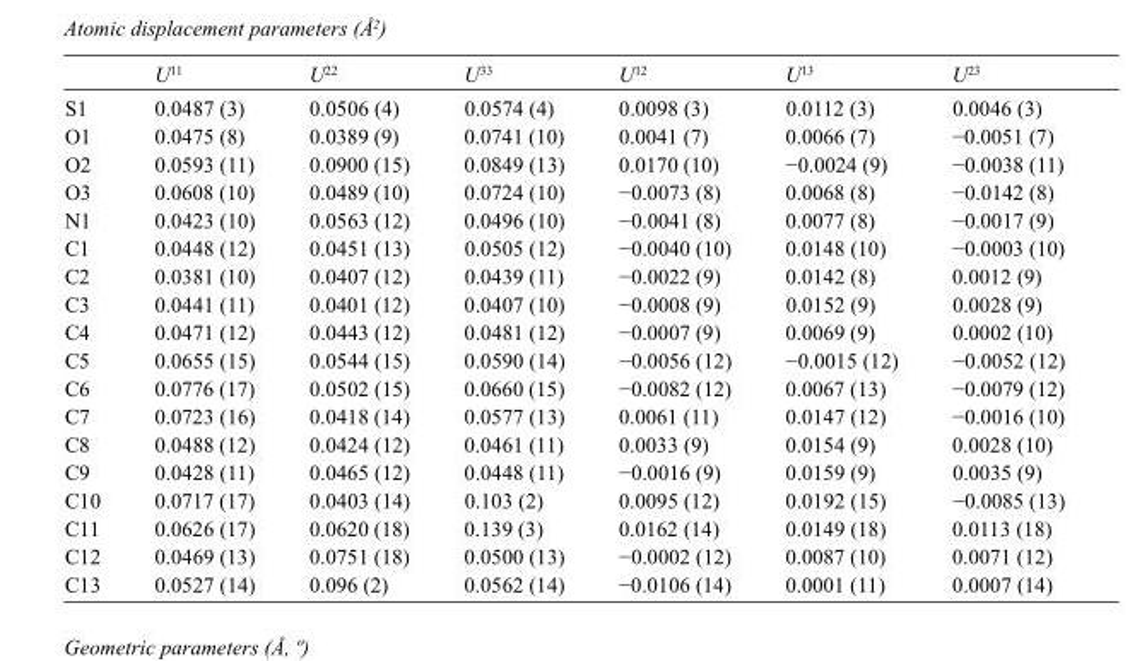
<table><thead><tr><td></td><td>U<sup>11</sup></td><td>U<sup>22</sup></td><td>U<sup>33</sup></td><td>U<sup>12</sup></td><td>U<sup>13</sup></td><td>U<sup>23</sup></td></tr></thead><tbody><tr><td>S1</td><td>0.0487 (3)</td><td>0.0506 (4)</td><td>0.0574 (4)</td><td>0.0098 (3)</td><td>0.0112 (3)</td><td>0.0046 (3)</td></tr><tr><td>O1</td><td>0.0475 (8)</td><td>0.0389 (9)</td><td>0.0741 (10)</td><td>0.0041 (7)</td><td>0.0066 (7)</td><td>−0.0051 (7)</td></tr><tr><td>O2</td><td>0.0593 (11)</td><td>0.0900 (15)</td><td>0.0849 (13)</td><td>0.0170 (10)</td><td>−0.0024 (9)</td><td>−0.0038 (11)</td></tr><tr><td>O3</td><td>0.0608 (10)</td><td>0.0489 (10)</td><td>0.0724 (10)</td><td>−0.0073 (8)</td><td>0.0068 (8)</td><td>−0.0142 (8)</td></tr><tr><td>N1</td><td>0.0423 (10)</td><td>0.0563 (12)</td><td>0.0496 (10)</td><td>−0.0041 (8)</td><td>0.0077 (8)</td><td>−0.0017 (9)</td></tr><tr><td>C1</td><td>0.0448 (12)</td><td>0.0451 (13)</td><td>0.0505 (12)</td><td>−0.0040 (10)</td><td>0.0148 (10)</td><td>−0.0003 (10)</td></tr><tr><td>C2</td><td>0.0381 (10)</td><td>0.0407 (12)</td><td>0.0439 (11)</td><td>−0.0022 (9)</td><td>0.0142 (8)</td><td>0.0012 (9)</td></tr><tr><td>C3</td><td>0.0441 (11)</td><td>0.0401 (12)</td><td>0.0407 (10)</td><td>−0.0008 (9)</td><td>0.0152 (9)</td><td>0.0028 (9)</td></tr><tr><td>C4</td><td>0.0471 (12)</td><td>0.0443 (12)</td><td>0.0481 (12)</td><td>−0.0007 (9)</td><td>0.0069 (9)</td><td>0.0002 (10)</td></tr><tr><td>C5</td><td>0.0655 (15)</td><td>0.0544 (15)</td><td>0.0590 (14)</td><td>−0.0056 (12)</td><td>−0.0015 (12)</td><td>−0.0052 (12)</td></tr><tr><td>C6</td><td>0.0776 (17)</td><td>0.0502 (15)</td><td>0.0660 (15)</td><td>−0.0082 (12)</td><td>0.0067 (13)</td><td>−0.0079 (12)</td></tr><tr><td>C7</td><td>0.0723 (16)</td><td>0.0418 (14)</td><td>0.0577 (13)</td><td>0.0061 (11)</td><td>0.0147 (12)</td><td>−0.0016 (10)</td></tr><tr><td>C8</td><td>0.0488 (12)</td><td>0.0424 (12)</td><td>0.0461 (11)</td><td>0.0033 (9)</td><td>0.0154 (9)</td><td>0.0028 (10)</td></tr><tr><td>C9</td><td>0.0428 (11)</td><td>0.0465 (12)</td><td>0.0448 (11)</td><td>−0.0016 (9)</td><td>0.0159 (9)</td><td>0.0035 (9)</td></tr><tr><td>C10</td><td>0.0717 (17)</td><td>0.0403 (14)</td><td>0.103 (2)</td><td>0.0095 (12)</td><td>0.0192 (15)</td><td>−0.0085 (13)</td></tr><tr><td>C11</td><td>0.0626 (17)</td><td>0.0620 (18)</td><td>0.139 (3)</td><td>0.0162 (14)</td><td>0.0149 (18)</td><td>0.0113 (18)</td></tr><tr><td>C12</td><td>0.0469 (13)</td><td>0.0751 (18)</td><td>0.0500 (13)</td><td>−0.0002 (12)</td><td>0.0087 (10)</td><td>0.0071 (12)</td></tr><tr><td>C13</td><td>0.0527 (14)</td><td>0.096 (2)</td><td>0.0562 (14)</td><td>−0.0106 (14)</td><td>0.0001 (11)</td><td>0.0007 (14)</td></tr></tbody></table>